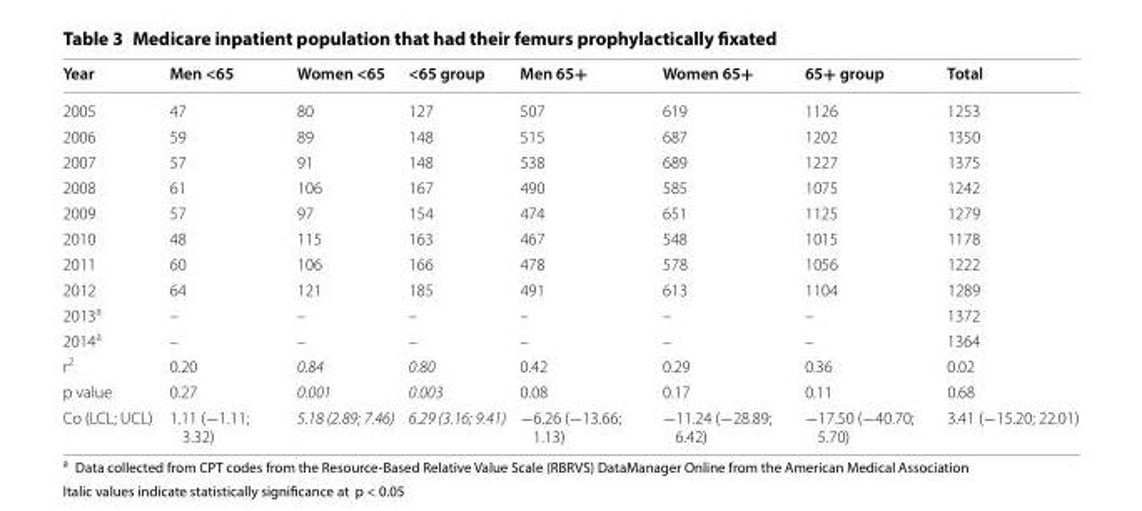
<table><thead><tr><td>Year</td><td>Men &lt;65</td><td>Women &lt;65</td><td>&lt;65 group</td><td>Men 65+</td><td>Women 65+</td><td>65+ group</td><td>Total</td></tr></thead><tbody><tr><td>2005</td><td>47</td><td>80</td><td>127</td><td>507</td><td>619</td><td>1126</td><td>1253</td></tr><tr><td>2006</td><td>59</td><td>89</td><td>148</td><td>515</td><td>687</td><td>1202</td><td>1350</td></tr><tr><td>2007</td><td>57</td><td>91</td><td>148</td><td>538</td><td>689</td><td>1227</td><td>1375</td></tr><tr><td>2008</td><td>61</td><td>106</td><td>167</td><td>490</td><td>585</td><td>1075</td><td>1242</td></tr><tr><td>2009</td><td>57</td><td>97</td><td>154</td><td>474</td><td>651</td><td>1125</td><td>1279</td></tr><tr><td>2010</td><td>48</td><td>115</td><td>163</td><td>467</td><td>548</td><td>1015</td><td>1178</td></tr><tr><td>2011</td><td>60</td><td>106</td><td>166</td><td>478</td><td>578</td><td>1056</td><td>1222</td></tr><tr><td>2012</td><td>64</td><td>121</td><td>185</td><td>491</td><td>613</td><td>1104</td><td>1289</td></tr><tr><td>2013<sup>a</sup></td><td>–</td><td>–</td><td>–</td><td>–</td><td>–</td><td>–</td><td>1372</td></tr><tr><td>2014<sup>a</sup></td><td>–</td><td>–</td><td>–</td><td>–</td><td>–</td><td>–</td><td>1364</td></tr><tr><td>r<sup>2</sup></td><td>0.20</td><td>0.84</td><td>0.80</td><td>0.42</td><td>0.29</td><td>0.36</td><td>0.02</td></tr><tr><td>p value</td><td>0.27</td><td>0.001</td><td>0.003</td><td>0.08</td><td>0.17</td><td>0.11</td><td>0.68</td></tr><tr><td>Co (LCL; UCL)</td><td>1.11 (−1.11; 3.32)</td><td>5.18 (2.89; 7.46)</td><td>6.29 (3.16; 9.41)</td><td>−6.26 (−13.66; 1.13)</td><td>−11.24 (−28.89; 6.42)</td><td>−17.50 (−40.70; 5.70)</td><td>3.41 (−15.20; 22.01)</td></tr></tbody></table>